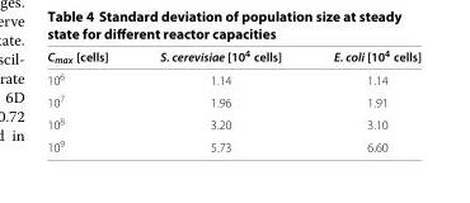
<table><thead><tr><td>C<sub>max</sub> [cells]</td><td>S. cerevisiae [10<sup>4</sup> cells]</td><td>E. coli [10<sup>4</sup> cells]</td></tr></thead><tbody><tr><td>10<sup>6</sup></td><td>1.14</td><td>1.14</td></tr><tr><td>10<sup>7</sup></td><td>1.96</td><td>1.91</td></tr><tr><td>10<sup>8</sup></td><td>3.20</td><td>3.10</td></tr><tr><td>10<sup>9</sup></td><td>5.73</td><td>6.60</td></tr></tbody></table>